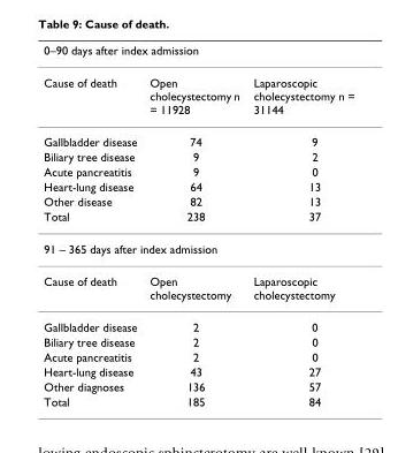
<table><thead><tr><td colspan="3">0–90 days after index admission</td></tr><tr><td>Cause of death</td><td>Open cholecystectomy n = 11928</td><td>Laparoscopic cholecystectomy n = 31144</td></tr></thead><tbody><tr><td>Gallbladder disease</td><td>74</td><td>9</td></tr><tr><td>Biliary tree disease</td><td>9</td><td>2</td></tr><tr><td>Acute pancreatitis</td><td>9</td><td>0</td></tr><tr><td>Heart-lung disease</td><td>64</td><td>13</td></tr><tr><td>Other disease</td><td>82</td><td>13</td></tr><tr><td>Total</td><td>238</td><td>37</td></tr><tr><td colspan="3">91 – 365 days after index admission</td></tr><tr><td>Cause of death</td><td>Open cholecystectomy</td><td>Laparoscopic cholecystectomy</td></tr><tr><td>Gallbladder disease</td><td>2</td><td>0</td></tr><tr><td>Biliary tree disease</td><td>2</td><td>0</td></tr><tr><td>Acute pancreatitis</td><td>2</td><td>0</td></tr><tr><td>Heart-lung disease</td><td>43</td><td>27</td></tr><tr><td>Other diagnoses</td><td>136</td><td>57</td></tr><tr><td>Total</td><td>185</td><td>84</td></tr></tbody></table>